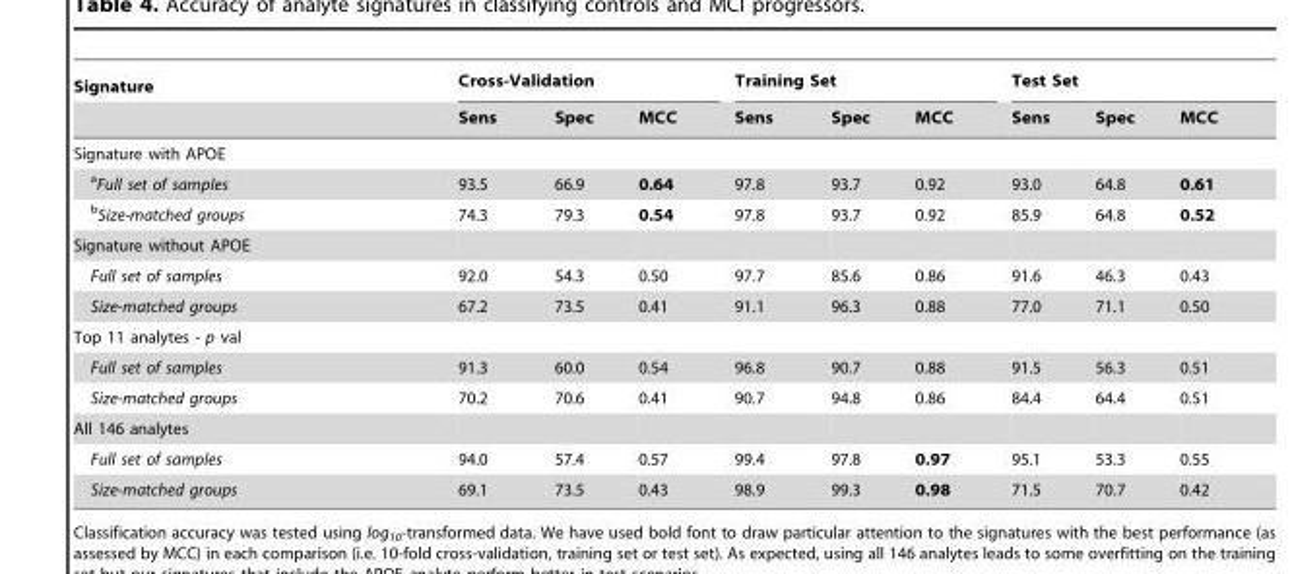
<table><thead><tr><td rowspan="2">Signature</td><td colspan="3">Cross-Validation</td><td colspan="3">Training Set</td><td colspan="3">Test Set</td></tr><tr><td>Sens</td><td>Spec</td><td>MCC</td><td>Sens</td><td>Spec</td><td>MCC</td><td>Sens</td><td>Spec</td><td>MCC</td></tr></thead><tbody><tr><td colspan="10">Signature with APOE</td></tr><tr><td>aFull set of samples</td><td>93.5</td><td>66.9</td><td>0.64</td><td>97.8</td><td>93.7</td><td>0.92</td><td>93.0</td><td>64.8</td><td>0.61</td></tr><tr><td>bSize-matched groups</td><td>74.3</td><td>79.3</td><td>0.54</td><td>97.8</td><td>93.7</td><td>0.92</td><td>85.9</td><td>64.8</td><td>0.52</td></tr><tr><td colspan="10">Signature without APOE</td></tr><tr><td>Full set of samples</td><td>92.0</td><td>54.3</td><td>0.50</td><td>97.7</td><td>85.6</td><td>0.86</td><td>91.6</td><td>46.3</td><td>0.43</td></tr><tr><td>Size-matched groups</td><td>67.2</td><td>73.5</td><td>0.41</td><td>91.1</td><td>96.3</td><td>0.88</td><td>77.0</td><td>71.1</td><td>0.50</td></tr><tr><td colspan="10">Top 11 analytes - p val</td></tr><tr><td>Full set of samples</td><td>91.3</td><td>60.0</td><td>0.54</td><td>96.8</td><td>90.7</td><td>0.88</td><td>91.5</td><td>56.3</td><td>0.51</td></tr><tr><td>Size-matched groups</td><td>70.2</td><td>70.6</td><td>0.41</td><td>90.7</td><td>94.8</td><td>0.86</td><td>84.4</td><td>64.4</td><td>0.51</td></tr><tr><td colspan="10">All 146 analytes</td></tr><tr><td>Full set of samples</td><td>94.0</td><td>57.4</td><td>0.57</td><td>99.4</td><td>97.8</td><td>0.97</td><td>95.1</td><td>53.3</td><td>0.55</td></tr><tr><td>Size-matched groups</td><td>69.1</td><td>73.5</td><td>0.43</td><td>98.9</td><td>99.3</td><td>0.98</td><td>71.5</td><td>70.7</td><td>0.42</td></tr></tbody></table>